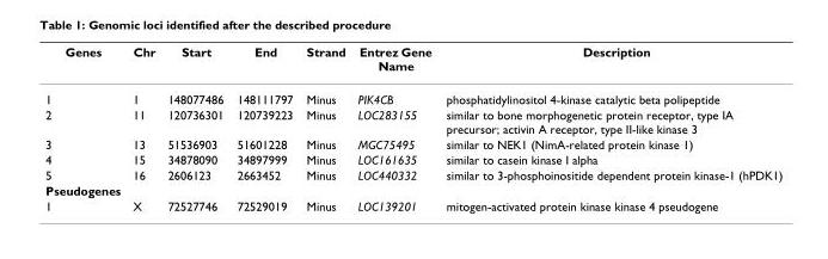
<table><thead><tr><td>Genes</td><td>Chr</td><td>Start</td><td>End</td><td>Strand</td><td>Entrez Gene Name</td><td>Description</td></tr></thead><tbody><tr><td>1</td><td>1</td><td>148077486</td><td>148111797</td><td>Minus</td><td>PIK4CB</td><td>phosphatidylinositol 4-kinase catalytic beta polipeptide</td></tr><tr><td>2</td><td>11</td><td>120736301</td><td>120739223</td><td>Minus</td><td>LOC283155</td><td>similar to bone morphogenetic protein receptor, type IA precursor; activin A receptor, type II-like kinase 3</td></tr><tr><td>3</td><td>13</td><td>51536903</td><td>51601228</td><td>Minus</td><td>MGC75495</td><td>similar to NEK1 (NimA-related protein kinase 1)</td></tr><tr><td>4</td><td>15</td><td>34878090</td><td>34897999</td><td>Minus</td><td>LOC161635</td><td>similar to casein kinase I alpha</td></tr><tr><td>5</td><td>16</td><td>2606123</td><td>2663452</td><td>Minus</td><td>LOC440332</td><td>similar to 3-phosphoinositide dependent protein kinase-1 (hPDK1)</td></tr><tr><td colspan="7">Pseudogenes</td></tr><tr><td>1</td><td>X</td><td>72527746</td><td>72529019</td><td>Minus</td><td>LOC139201</td><td>mitogen-activated protein kinase kinase 4 pseudogene</td></tr></tbody></table>